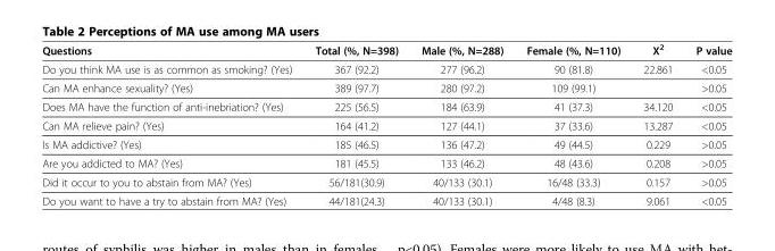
<table><thead><tr><td>Questions</td><td>Total (%, N=398)</td><td>Male (%, N=288)</td><td>Female (%, N=110)</td><td>X<sup>2</sup></td><td>P value</td></tr></thead><tbody><tr><td>Do you think MA use is as common as smoking? (Yes)</td><td>367 (92.2)</td><td>277 (96.2)</td><td>90 (81.8)</td><td>22.861</td><td>&lt;0.05</td></tr><tr><td>Can MA enhance sexuality? (Yes)</td><td>389 (97.7)</td><td>280 (97.2)</td><td>109 (99.1)</td><td></td><td>&gt;0.05</td></tr><tr><td>Does MA have the function of anti-inebriation? (Yes)</td><td>225 (56.5)</td><td>184 (63.9)</td><td>41 (37.3)</td><td>34.120</td><td>&lt;0.05</td></tr><tr><td>Can MA relieve pain? (Yes)</td><td>164 (41.2)</td><td>127 (44.1)</td><td>37 (33.6)</td><td>13.287</td><td>&lt;0.05</td></tr><tr><td>Is MA addictive? (Yes)</td><td>185 (46.5)</td><td>136 (47.2)</td><td>49 (44.5)</td><td>0.229</td><td>&gt;0.05</td></tr><tr><td>Are you addicted to MA? (Yes)</td><td>181 (45.5)</td><td>133 (46.2)</td><td>48 (43.6)</td><td>0.208</td><td>&gt;0.05</td></tr><tr><td>Did it occur to you to abstain from MA? (Yes)</td><td>56/181(30.9)</td><td>40/133 (30.1)</td><td>16/48 (33.3)</td><td>0.157</td><td>&gt;0.05</td></tr><tr><td>Do you want to have a try to abstain from MA? (Yes)</td><td>44/181(24.3)</td><td>40/133 (30.1)</td><td>4/48 (8.3)</td><td>9.061</td><td>&lt;0.05</td></tr></tbody></table>